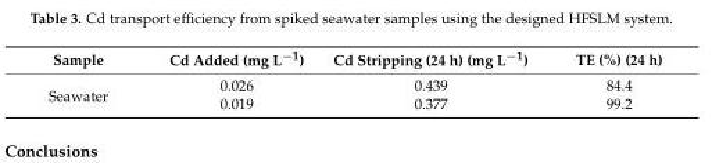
<table><thead><tr><td>Sample</td><td>Cd Added (mg L<sup>−1</sup>)</td><td>Cd Stripping (24 h) (mg L<sup>−1</sup>)</td><td>TE (%) (24 h)</td></tr></thead><tbody><tr><td rowspan="2">Seawater</td><td>0.026</td><td>0.439</td><td>84.4</td></tr><tr><td>0.019</td><td>0.377</td><td>99.2</td></tr></tbody></table>